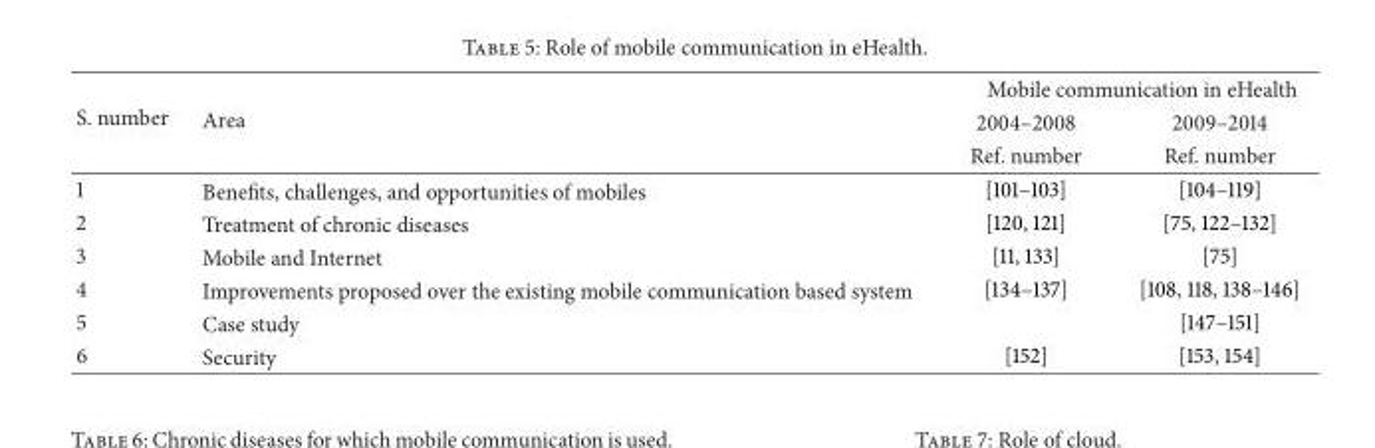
<table><thead><tr><td rowspan="3">S. number</td><td rowspan="3">Area</td><td colspan="2">Mobile communication in eHealth</td></tr><tr><td rowspan="2">2004–2008 Ref. number</td><td rowspan="2">2009–2014 Ref. number</td></tr><tr></tr></thead><tbody><tr><td>1</td><td>Benefits, challenges, and opportunities of mobiles</td><td>[101–103]</td><td>[104–119]</td></tr><tr><td>2</td><td>Treatment of chronic diseases</td><td>[120, 121]</td><td>[75, 122–132]</td></tr><tr><td>3</td><td>Mobile and Internet</td><td>[11, 133]</td><td>[75]</td></tr><tr><td>4</td><td>Improvements proposed over the existing mobile communication based system</td><td>[134–137]</td><td>[108, 118, 138–146]</td></tr><tr><td>5</td><td>Case study</td><td></td><td>[147–151]</td></tr><tr><td>6</td><td>Security</td><td>[152]</td><td>[153, 154]</td></tr></tbody></table>